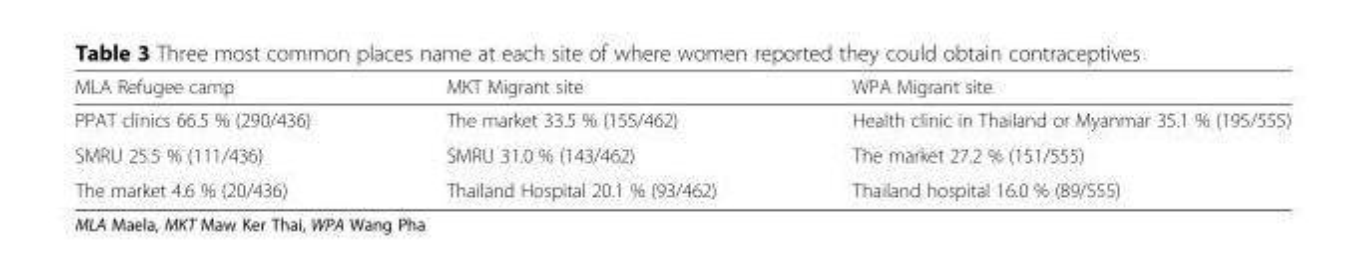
<table><thead><tr><td>MLA Refugee camp</td><td>MKT Migrant site</td><td>WPA Migrant site</td></tr></thead><tbody><tr><td>PPAT clinics 66.5 % (290/436)</td><td>The market 33.5 % (155/462)</td><td>Health clinic in Thailand or Myanmar 35.1 % (195/555)</td></tr><tr><td>SMRU 25.5 % (111/436)</td><td>SMRU 31.0 % (143/462)</td><td>The market 27.2 % (151/555)</td></tr><tr><td>The market 4.6 % (20/436)</td><td>Thailand Hospital 20.1 % (93/462)</td><td>Thailand hospital 16.0 % (89/555)</td></tr></tbody></table>